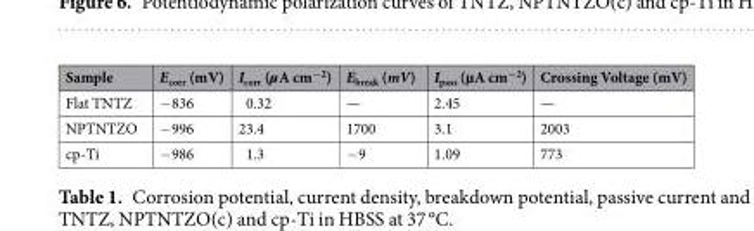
<table><thead><tr><td>Sample</td><td>E<sub>corr</sub> (mV)</td><td>I<sub>corr</sub> (µA cm<sup>−2</sup>)</td><td>E<sub>break</sub> (mV)</td><td>I<sub>pass</sub> (µA cm<sup>−2</sup>)</td><td>Crossing Voltage (mV)</td></tr></thead><tbody><tr><td>Flat TNTZ</td><td>−836</td><td>0.32</td><td>—</td><td>2.45</td><td>—</td></tr><tr><td>NPTNTZO</td><td>−996</td><td>23.4</td><td>1700</td><td>3.1</td><td>2003</td></tr><tr><td>cp-Ti</td><td>−986</td><td>1.3</td><td>−9</td><td>1.09</td><td>773</td></tr></tbody></table>